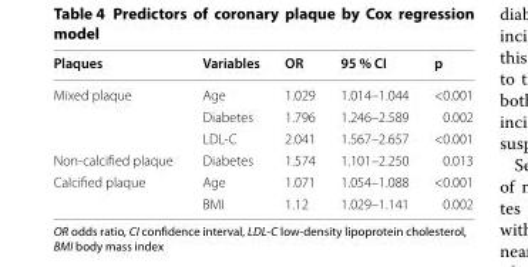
<table><thead><tr><td>Plaques</td><td>Variables</td><td>OR</td><td>95 % CI</td><td>p</td></tr></thead><tbody><tr><td rowspan="3">Mixed plaque</td><td>Age</td><td>1.029</td><td>1.014–1.044</td><td>&lt;0.001</td></tr><tr><td>Diabetes</td><td>1.796</td><td>1.246–2.589</td><td>0.002</td></tr><tr><td>LDL-C</td><td>2.041</td><td>1.567–2.657</td><td>&lt;0.001</td></tr><tr><td>Non-calcified plaque</td><td>Diabetes</td><td>1.574</td><td>1.101–2.250</td><td>0.013</td></tr><tr><td rowspan="2">Calcified plaque</td><td>Age</td><td>1.071</td><td>1.054–1.088</td><td>&lt;0.001</td></tr><tr><td>BMI</td><td>1.12</td><td>1.029–1.141</td><td>0.002</td></tr></tbody></table>